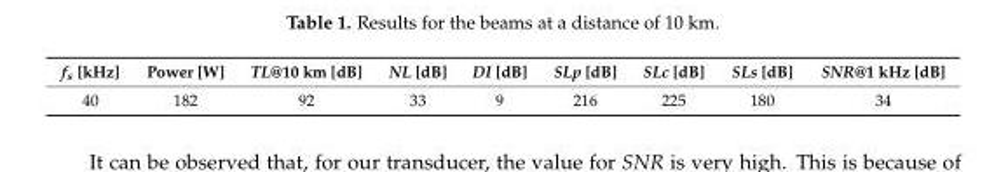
<table><thead><tr><td>f<sub>s</sub> [kHz]</td><td>Power [W]</td><td>TL@10 km [dB]</td><td>NL [dB]</td><td>DI [dB]</td><td>SLp [dB]</td><td>SLc [dB]</td><td>SLs [dB]</td><td>SNR@1 kHz [dB]</td></tr></thead><tbody><tr><td>40</td><td>182</td><td>92</td><td>33</td><td>9</td><td>216</td><td>225</td><td>180</td><td>34</td></tr></tbody></table>